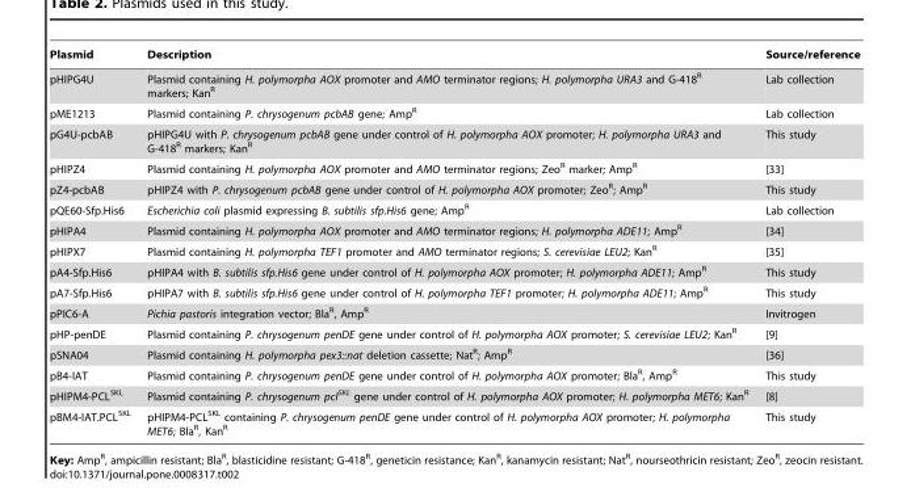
<table><thead><tr><td>Plasmid</td><td>Description</td><td>Source/reference</td></tr></thead><tbody><tr><td>pHIPG4U</td><td>Plasmid containing H. polymorpha AOX promoter and AMO terminator regions; H. polymorpha URA3 and G-418<sup>R</sup> markers; Kan<sup>R</sup></td><td>Lab collection</td></tr><tr><td>pME1213</td><td>Plasmid containing P. chrysogenum pcbAB gene; Amp<sup>R</sup></td><td>Lab collection</td></tr><tr><td>pG4U-pcbAB</td><td>pHIPG4U with P. chrysogenum pcbAB gene under control of H. polymorpha AOX promoter; H. polymorpha URA3 and G-418<sup>R</sup> markers; Kan<sup>R</sup></td><td>This study</td></tr><tr><td>pHIPZ4</td><td>Plasmid containing H. polymorpha AOX promoter and AMO terminator regions; Zeo<sup>R</sup> marker; Amp<sup>R</sup></td><td>[33]</td></tr><tr><td>pZ4-pcbAB</td><td>pHIPZ4 with P. chrysogenum pcbAB gene under control of H. polymorpha AOX promoter; Zeo<sup>R</sup>; Amp<sup>R</sup></td><td>This study</td></tr><tr><td>pQE60-Sfp.His6</td><td>Escherichia coli plasmid expressing B. subtilis sfp.His6 gene; Amp<sup>R</sup></td><td>Lab collection</td></tr><tr><td>pHIPA4</td><td>Plasmid containing H. polymorpha AOX promoter and AMO terminator regions; H. polymorpha ADE11; Amp<sup>R</sup></td><td>[34]</td></tr><tr><td>pHIPX7</td><td>Plasmid containing H. polymorpha TEF1 promoter and AMO terminator regions; S. cerevisiae LEU2; Kan<sup>R</sup></td><td>[35]</td></tr><tr><td>pA4-Sfp.His6</td><td>pHIPA4 with B. subtilis sfp.His6 gene under control of H. polymorpha AOX promoter; H. polymorpha ADE11; Amp<sup>R</sup></td><td>This study</td></tr><tr><td>pA7-Sfp.His6</td><td>pHIPA7 with B. subtilis sfp.His6 gene under control of H. polymorpha TEF1 promoter; H. polymorpha ADE11; Amp<sup>R</sup></td><td>This study</td></tr><tr><td>pPIC6-A</td><td>Pichia pastoris integration vector; Bla<sup>R</sup>, Amp<sup>R</sup></td><td>Invitrogen</td></tr><tr><td>pHP-penDE</td><td>Plasmid containing P. chrysogenum penDE gene under control of H. polymorpha AOX promoter; S. cerevisiae LEU2; Kan<sup>R</sup></td><td>[9]</td></tr><tr><td>pSNA04</td><td>Plasmid containing H. polymorpha pex3::nat deletion cassette; Nat<sup>R</sup>; Amp<sup>R</sup></td><td>[36]</td></tr><tr><td>pB4-IAT</td><td>Plasmid containing P. chrysogenum penDE gene under control of H. polymorpha AOX promoter; Bla<sup>R</sup>, Amp<sup>R</sup></td><td>This study</td></tr><tr><td>pHIPM4-PCL<sup>SKL</sup></td><td>Plasmid containing P. chrysogenum pcl<sup>SKL</sup> gene under control of H. polymorpha AOX promoter; H. polymorpha MET6; Kan<sup>R</sup></td><td>[8]</td></tr><tr><td>pBM4-IAT.PCL<sup>SKL</sup></td><td>pHIPM4-PCL<sup>SKL</sup> containing P. chrysogenum penDE gene under control of H. polymorpha AOX promoter; H. polymorpha MET6; Bla<sup>R</sup>, Kan<sup>R</sup></td><td>This study</td></tr></tbody></table>